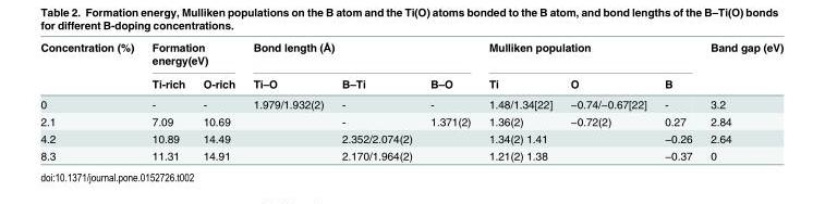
<table><thead><tr><td rowspan="2">Concentration (%)</td><td colspan="2">Formation energy(eV)</td><td colspan="3">Bond length (Å)</td><td colspan="3">Mulliken population</td><td rowspan="2">Band gap (eV)</td></tr><tr><td>Ti-rich</td><td>O-rich</td><td>Ti–O</td><td>B–Ti</td><td>B–O</td><td>Ti</td><td>O</td><td>B</td></tr></thead><tbody><tr><td>0</td><td>-</td><td>-</td><td>1.979/1.932(2)</td><td>-</td><td>-</td><td>1.48/1.34[22]</td><td>−0.74/−0.67[22]</td><td>-</td><td>3.2</td></tr><tr><td>2.1</td><td>7.09</td><td>10.69</td><td></td><td>-</td><td>1.371(2)</td><td>1.36(2)</td><td>−0.72(2)</td><td>0.27</td><td>2.84</td></tr><tr><td>4.2</td><td>10.89</td><td>14.49</td><td></td><td>2.352/2.074(2)</td><td></td><td>1.34(2) 1.41</td><td></td><td>−0.26</td><td>2.64</td></tr><tr><td>8.3</td><td>11.31</td><td>14.91</td><td></td><td>2.170/1.964(2)</td><td></td><td>1.21(2) 1.38</td><td></td><td>−0.37</td><td>0</td></tr></tbody></table>